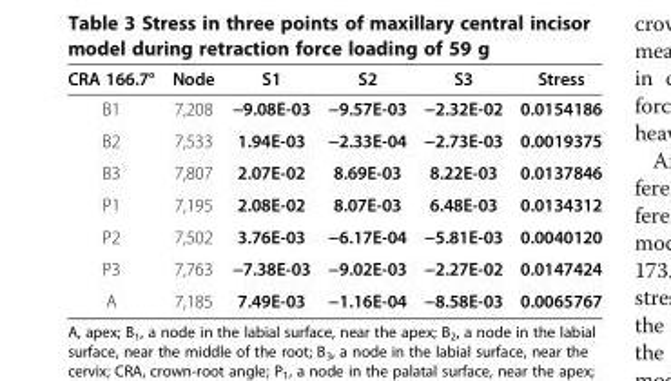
<table><thead><tr><td>CRA 166.7°</td><td>Node</td><td>S1</td><td>S2</td><td>S3</td><td>Stress</td></tr></thead><tbody><tr><td>B1</td><td>7,208</td><td>−9.08E-03</td><td>−9.57E-03</td><td>−2.32E-02</td><td>0.0154186</td></tr><tr><td>B2</td><td>7,533</td><td>1.94E-03</td><td>−2.33E-04</td><td>−2.73E-03</td><td>0.0019375</td></tr><tr><td>B3</td><td>7,807</td><td>2.07E-02</td><td>8.69E-03</td><td>8.22E-03</td><td>0.0137846</td></tr><tr><td>P1</td><td>7,195</td><td>2.08E-02</td><td>8.07E-03</td><td>6.48E-03</td><td>0.0134312</td></tr><tr><td>P2</td><td>7,502</td><td>3.76E-03</td><td>−6.17E-04</td><td>−5.81E-03</td><td>0.0040120</td></tr><tr><td>P3</td><td>7,763</td><td>−7.38E-03</td><td>−9.02E-03</td><td>−2.27E-02</td><td>0.0147424</td></tr><tr><td>A</td><td>7,185</td><td>7.49E-03</td><td>−1.16E-04</td><td>−8.58E-03</td><td>0.0065767</td></tr></tbody></table>